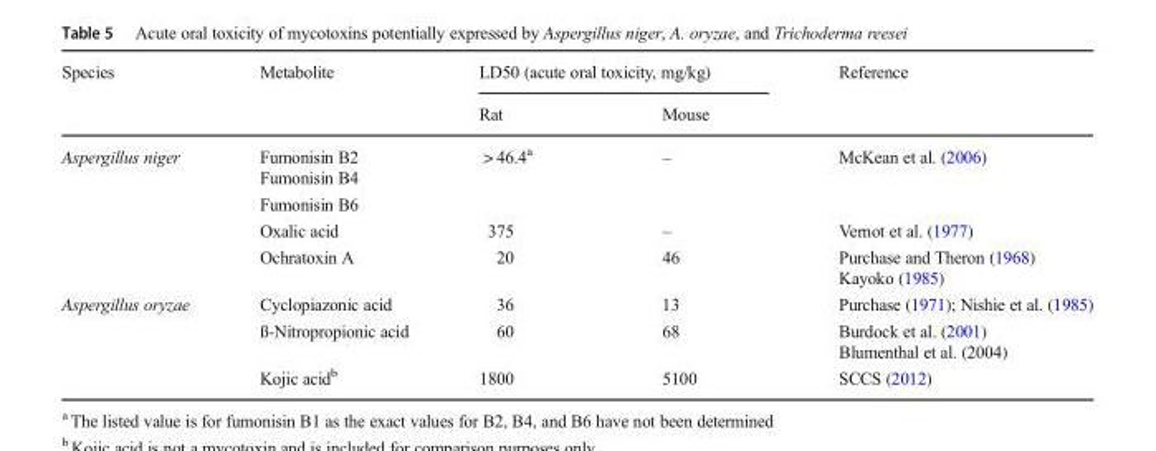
<table><thead><tr><td rowspan="2">Species</td><td rowspan="2">Metabolite</td><td colspan="2">LD50 (acute oral toxicity, mg/kg)</td><td rowspan="2">Reference</td></tr><tr><td>Rat</td><td>Mouse</td></tr></thead><tbody><tr><td rowspan="5">Aspergillus niger</td><td>Fumonisin B2</td><td rowspan="3">&gt; 46.4<sup>a</sup></td><td rowspan="3">–</td><td rowspan="3">McKean et al. (2006)</td></tr><tr><td>Fumonisin B4</td></tr><tr><td>Fumonisin B6</td></tr><tr><td>Oxalic acid</td><td>375</td><td>–</td><td>Vernot et al. (1977)</td></tr><tr><td>Ochratoxin A</td><td>20</td><td>46</td><td>Purchase and Theron (1968) Kayoko (1985)</td></tr><tr><td rowspan="3">Aspergillus oryzae</td><td>Cyclopiazonic acid</td><td>36</td><td>13</td><td>Purchase (1971); Nishie et al. (1985)</td></tr><tr><td>ß-Nitropropionic acid</td><td>60</td><td>68</td><td>Burdock et al. (2001) Blumenthal et al. (2004)</td></tr><tr><td>Kojic acid<sup>b</sup></td><td>1800</td><td>5100</td><td>SCCS (2012)</td></tr></tbody></table>